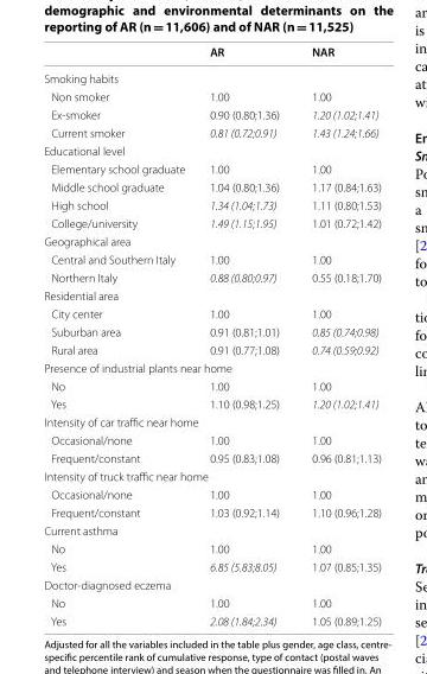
<table><thead><tr><td></td><td>AR</td><td>NAR</td></tr></thead><tbody><tr><td colspan="3">Smoking habits</td></tr><tr><td>Non smoker</td><td>1.00</td><td>1.00</td></tr><tr><td>Ex-smoker</td><td>0.90 (0.80;1.36)</td><td>1.20 (1.02;1.41)</td></tr><tr><td>Current smoker</td><td>0.81 (0.72;0.91)</td><td>1.43 (1.24;1.66)</td></tr><tr><td colspan="3">Educational level</td></tr><tr><td>Elementary school graduate</td><td>1.00</td><td>1.00</td></tr><tr><td>Middle school graduate</td><td>1.04 (0.80;1.36)</td><td>1.17 (0.84;1.63)</td></tr><tr><td>High school</td><td>1.34 (1.04;1.73)</td><td>1.11 (0.80;1.53)</td></tr><tr><td>College/university</td><td>1.49 (1.15;1.95)</td><td>1.01 (0.72;1.42)</td></tr><tr><td colspan="3">Geographical area</td></tr><tr><td>Central and Southern Italy</td><td>1.00</td><td>1.00</td></tr><tr><td>Northern Italy</td><td>0.88 (0.80;0.97)</td><td>0.55 (0.18;1.70)</td></tr><tr><td colspan="3">Residential area</td></tr><tr><td>City center</td><td>1.00</td><td>1.00</td></tr><tr><td>Suburban area</td><td>0.91 (0.81;1.01)</td><td>0.85 (0.74;0.98)</td></tr><tr><td>Rural area</td><td>0.91 (0.77;1.08)</td><td>0.74 (0.59;0.92)</td></tr><tr><td colspan="3">Presence of industrial plants near home</td></tr><tr><td>No</td><td>1.00</td><td>1.00</td></tr><tr><td>Yes</td><td>1.10 (0.98;1.25)</td><td>1.20 (1.02;1.41)</td></tr><tr><td colspan="3">Intensity of car traffic near home</td></tr><tr><td>Occasional/none</td><td>1.00</td><td>1.00</td></tr><tr><td>Frequent/constant</td><td>0.95 (0.83;1.08)</td><td>0.96 (0.81;1.13)</td></tr><tr><td colspan="3">Intensity of truck traffic near home</td></tr><tr><td>Occasional/none</td><td>1.00</td><td>1.00</td></tr><tr><td>Frequent/constant</td><td>1.03 (0.92;1.14)</td><td>1.10 (0.96;1.28)</td></tr><tr><td colspan="3">Current asthma</td></tr><tr><td>No</td><td>1.00</td><td>1.00</td></tr><tr><td>Yes</td><td>6.85 (5.83;8.05)</td><td>1.07 (0.85;1.35)</td></tr><tr><td colspan="3">Doctor-diagnosed eczema</td></tr><tr><td>No</td><td>1.00</td><td>1.00</td></tr><tr><td>Yes</td><td>2.08 (1.84;2.34)</td><td>1.05 (0.89;1.25)</td></tr></tbody></table>